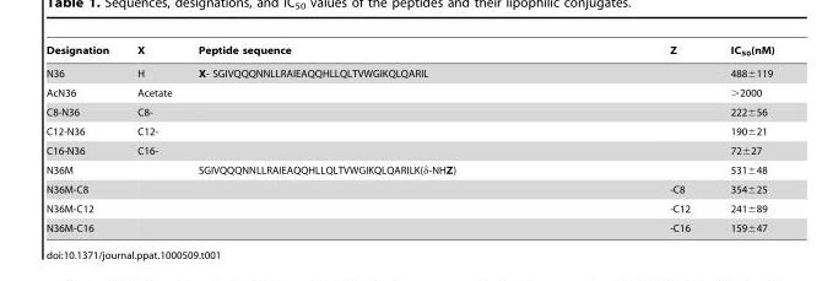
<table><thead><tr><td>Designation</td><td>X</td><td>Peptide sequence</td><td>Z</td><td>IC<sub>50</sub>(nM)</td></tr></thead><tbody><tr><td>N36</td><td>H</td><td>X- SGIVQQQNNLLRAIEAQQHLLQLTVWGIKQLQARIL</td><td></td><td>488±119</td></tr><tr><td>AcN36</td><td>Acetate</td><td></td><td></td><td>&gt;2000</td></tr><tr><td>C8-N36</td><td>C8-</td><td></td><td></td><td>222±56</td></tr><tr><td>C12-N36</td><td>C12-</td><td></td><td></td><td>190±21</td></tr><tr><td>C16-N36</td><td>C16-</td><td></td><td></td><td>72±27</td></tr><tr><td>N36M</td><td></td><td>SGIVQQQNNLLRAIEAQQHLLQLTVWGIKQLQARILK(δ-NHZ)</td><td></td><td>531±48</td></tr><tr><td>N36M-C8</td><td></td><td></td><td>-C8</td><td>354±25</td></tr><tr><td>N36M-C12</td><td></td><td></td><td>-C12</td><td>241±89</td></tr><tr><td>N36M-C16</td><td></td><td></td><td>-C16</td><td>159±47</td></tr></tbody></table>